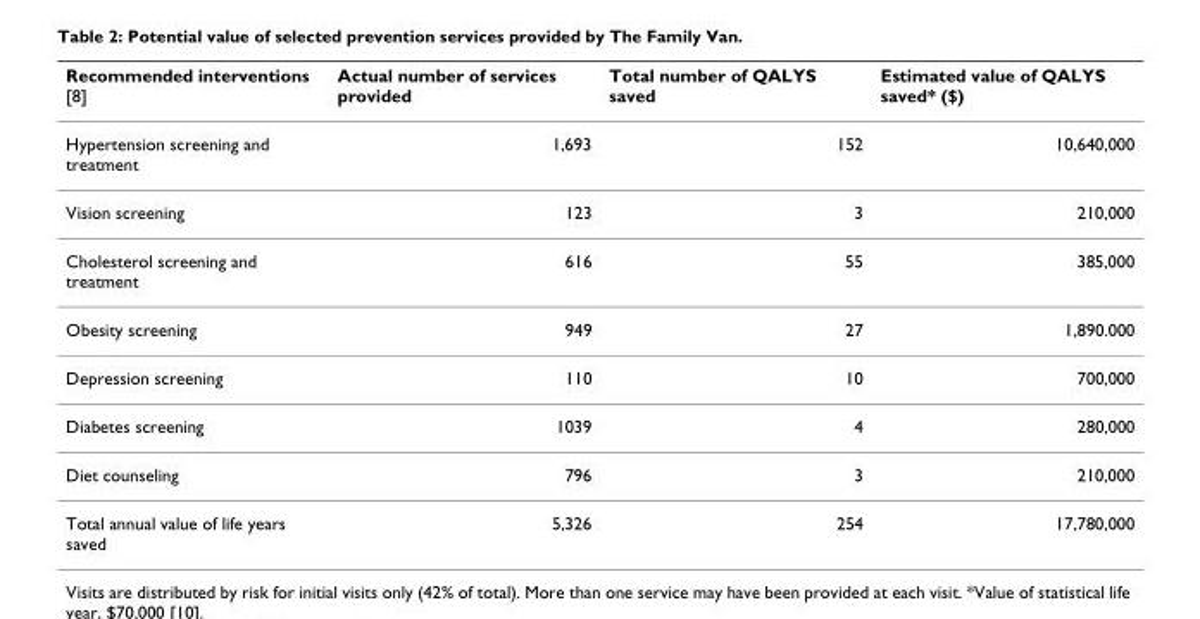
<table><thead><tr><td>Recommended interventions [8]</td><td>Actual number of services provided</td><td>Total number of QALYS saved</td><td>Estimated value of QALYS saved* ($)</td></tr></thead><tbody><tr><td>Hypertension screening and treatment</td><td>1,693</td><td>152</td><td>10,640,000</td></tr><tr><td>Vision screening</td><td>123</td><td>3</td><td>210,000</td></tr><tr><td>Cholesterol screening and treatment</td><td>616</td><td>55</td><td>385,000</td></tr><tr><td>Obesity screening</td><td>949</td><td>27</td><td>1,890.000</td></tr><tr><td>Depression screening</td><td>110</td><td>10</td><td>700,000</td></tr><tr><td>Diabetes screening</td><td>1039</td><td>4</td><td>280,000</td></tr><tr><td>Diet counseling</td><td>796</td><td>3</td><td>210,000</td></tr><tr><td>Total annual value of life years saved</td><td>5,326</td><td>254</td><td>17,780,000</td></tr></tbody></table>